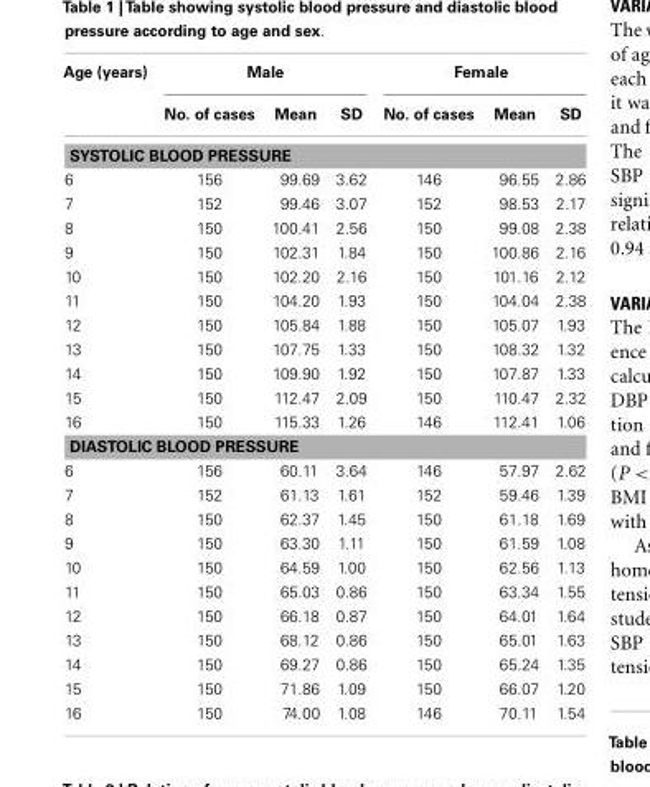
<table><thead><tr><td rowspan="2">Age (years)</td><td colspan="3">Male</td><td colspan="3">Female</td></tr><tr><td>No. of cases</td><td>Mean</td><td>SD</td><td>No. of cases</td><td>Mean</td><td>SD</td></tr></thead><tbody><tr><td colspan="7">SYSTOLIC BLOOD PRESSURE</td></tr><tr><td>6</td><td>156</td><td>99.69</td><td>3.62</td><td>146</td><td>96.55</td><td>2.86</td></tr><tr><td>7</td><td>152</td><td>99.46</td><td>3.07</td><td>152</td><td>98.53</td><td>2.17</td></tr><tr><td>8</td><td>150</td><td>100.41</td><td>2.56</td><td>150</td><td>99.08</td><td>2.38</td></tr><tr><td>9</td><td>150</td><td>102.31</td><td>1.84</td><td>150</td><td>100.86</td><td>2.16</td></tr><tr><td>10</td><td>150</td><td>102.20</td><td>2.16</td><td>150</td><td>101.16</td><td>2.12</td></tr><tr><td>11</td><td>150</td><td>104.20</td><td>1.93</td><td>150</td><td>104.04</td><td>2.38</td></tr><tr><td>12</td><td>150</td><td>105.84</td><td>1.88</td><td>150</td><td>105.07</td><td>1.93</td></tr><tr><td>13</td><td>150</td><td>107.75</td><td>1.33</td><td>150</td><td>108.32</td><td>1.32</td></tr><tr><td>14</td><td>150</td><td>109.90</td><td>1.92</td><td>150</td><td>107.87</td><td>1.33</td></tr><tr><td>15</td><td>150</td><td>112.47</td><td>2.09</td><td>150</td><td>110.47</td><td>2.32</td></tr><tr><td>16</td><td>150</td><td>115.33</td><td>1.26</td><td>146</td><td>112.41</td><td>1.06</td></tr><tr><td colspan="7">DIASTOLIC BLOOD PRESSURE</td></tr><tr><td>6</td><td>156</td><td>60.11</td><td>3.64</td><td>146</td><td>57.97</td><td>2.62</td></tr><tr><td>7</td><td>152</td><td>61.13</td><td>1.61</td><td>152</td><td>59.46</td><td>1.39</td></tr><tr><td>8</td><td>150</td><td>62.37</td><td>1.45</td><td>150</td><td>61.18</td><td>1.69</td></tr><tr><td>9</td><td>150</td><td>63.30</td><td>1.11</td><td>150</td><td>61.59</td><td>1.08</td></tr><tr><td>10</td><td>150</td><td>64.59</td><td>1.00</td><td>150</td><td>62.56</td><td>1.13</td></tr><tr><td>11</td><td>150</td><td>65.03</td><td>0.86</td><td>150</td><td>63.34</td><td>1.55</td></tr><tr><td>12</td><td>150</td><td>66.18</td><td>0.87</td><td>150</td><td>64.01</td><td>1.64</td></tr><tr><td>13</td><td>150</td><td>68.12</td><td>0.86</td><td>150</td><td>65.01</td><td>1.63</td></tr><tr><td>14</td><td>150</td><td>69.27</td><td>0.86</td><td>150</td><td>65.24</td><td>1.35</td></tr><tr><td>15</td><td>150</td><td>71.86</td><td>1.09</td><td>150</td><td>66.07</td><td>1.20</td></tr><tr><td>16</td><td>150</td><td>74.00</td><td>1.08</td><td>146</td><td>70.11</td><td>1.54</td></tr></tbody></table>